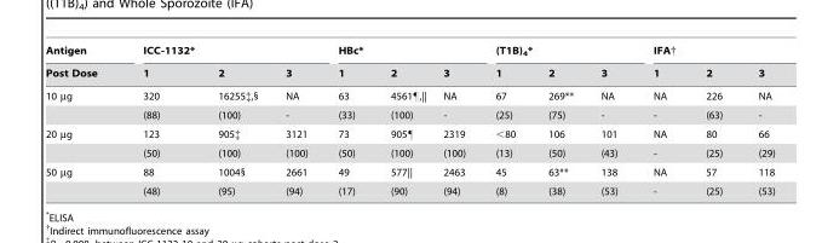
<table><thead><tr><td rowspan="2">Antigen Post Dose</td><td colspan="3">ICC-1132*</td><td colspan="3">HBc*</td><td colspan="3">(T1B)<sub>4</sub>*</td><td colspan="3">IFA†</td></tr><tr><td>1</td><td>2</td><td>3</td><td>1</td><td>2</td><td>3</td><td>1</td><td>2</td><td>3</td><td>1</td><td>2</td><td>3</td></tr></thead><tbody><tr><td rowspan="2">10 µg</td><td>320</td><td>16255‡,§</td><td>NA</td><td>63</td><td>4561¶,||</td><td>NA</td><td>67</td><td>269**</td><td>NA</td><td>NA</td><td>226</td><td>NA</td></tr><tr><td>(88)</td><td>(100)</td><td>-</td><td>(33)</td><td>(100)</td><td>-</td><td>(25)</td><td>(75)</td><td>-</td><td>-</td><td>(63)</td><td>-</td></tr><tr><td rowspan="2">20 µg</td><td>123</td><td>905‡</td><td>3121</td><td>73</td><td>905¶</td><td>2319</td><td>&lt;80</td><td>106</td><td>101</td><td>NA</td><td>80</td><td>66</td></tr><tr><td>(50)</td><td>(100)</td><td>(100)</td><td>(50)</td><td>(100)</td><td>(100)</td><td>(13)</td><td>(50)</td><td>(43)</td><td>-</td><td>(25)</td><td>(29)</td></tr><tr><td rowspan="2">50 µg</td><td>88</td><td>1004§</td><td>2661</td><td>49</td><td>577||</td><td>2463</td><td>45</td><td>63**</td><td>138</td><td>NA</td><td>57</td><td>118</td></tr><tr><td>(48)</td><td>(95)</td><td>(94)</td><td>(17)</td><td>(90)</td><td>(94)</td><td>(8)</td><td>(38)</td><td>(53)</td><td>-</td><td>(25)</td><td>(53)</td></tr></tbody></table>